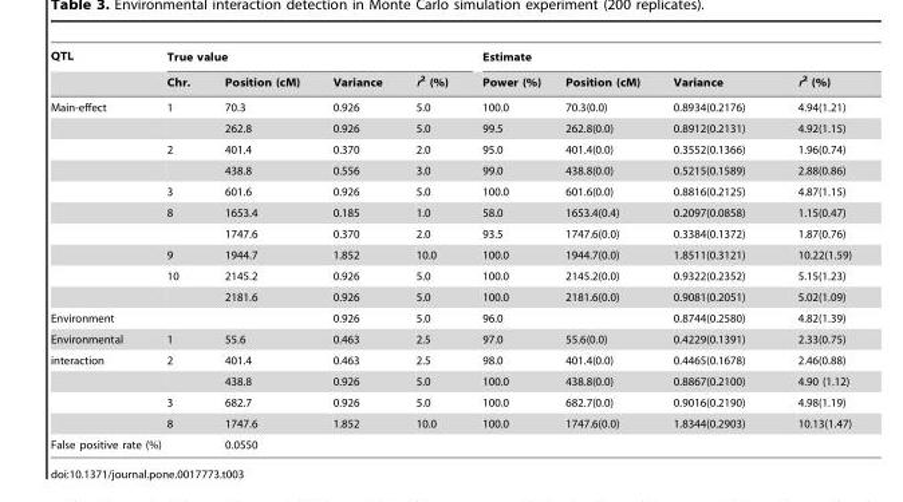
<table><thead><tr><td rowspan="2">QTL</td><td colspan="4">True value</td><td colspan="4">Estimate</td></tr><tr><td>Chr.</td><td>Position (cM)</td><td>Variance</td><td>r<sup>2</sup> (%)</td><td>Power (%)</td><td>Position (cM)</td><td>Variance</td><td>r<sup>2</sup> (%)</td></tr></thead><tbody><tr><td rowspan="10">Main-effect</td><td>1</td><td>70.3</td><td>0.926</td><td>5.0</td><td>100.0</td><td>70.3(0.0)</td><td>0.8934(0.2176)</td><td>4.94(1.21)</td></tr><tr><td></td><td>262.8</td><td>0.926</td><td>5.0</td><td>99.5</td><td>262.8(0.0)</td><td>0.8912(0.2131)</td><td>4.92(1.15)</td></tr><tr><td>2</td><td>401.4</td><td>0.370</td><td>2.0</td><td>95.0</td><td>401.4(0.0)</td><td>0.3552(0.1366)</td><td>1.96(0.74)</td></tr><tr><td></td><td>438.8</td><td>0.556</td><td>3.0</td><td>99.0</td><td>438.8(0.0)</td><td>0.5215(0.1589)</td><td>2.88(0.86)</td></tr><tr><td>3</td><td>601.6</td><td>0.926</td><td>5.0</td><td>100.0</td><td>601.6(0.0)</td><td>0.8816(0.2125)</td><td>4.87(1.15)</td></tr><tr><td>8</td><td>1653.4</td><td>0.185</td><td>1.0</td><td>58.0</td><td>1653.4(0.4)</td><td>0.2097(0.0858)</td><td>1.15(0.47)</td></tr><tr><td></td><td>1747.6</td><td>0.370</td><td>2.0</td><td>93.5</td><td>1747.6(0.0)</td><td>0.3384(0.1372)</td><td>1.87(0.76)</td></tr><tr><td>9</td><td>1944.7</td><td>1.852</td><td>10.0</td><td>100.0</td><td>1944.7(0.0)</td><td>1.8511(0.3121)</td><td>10.22(1.59)</td></tr><tr><td>10</td><td>2145.2</td><td>0.926</td><td>5.0</td><td>100.0</td><td>2145.2(0.0)</td><td>0.9322(0.2352)</td><td>5.15(1.23)</td></tr><tr><td></td><td>2181.6</td><td>0.926</td><td>5.0</td><td>100.0</td><td>2181.6(0.0)</td><td>0.9081(0.2051)</td><td>5.02(1.09)</td></tr><tr><td>Environment</td><td></td><td></td><td>0.926</td><td>5.0</td><td>96.0</td><td></td><td>0.8744(0.2580)</td><td>4.82(1.39)</td></tr><tr><td>Environmental</td><td>1</td><td>55.6</td><td>0.463</td><td>2.5</td><td>97.0</td><td>55.6(0.0)</td><td>0.4229(0.1391)</td><td>2.33(0.75)</td></tr><tr><td rowspan="4">interaction</td><td>2</td><td>401.4</td><td>0.463</td><td>2.5</td><td>98.0</td><td>401.4(0.0)</td><td>0.4465(0.1678)</td><td>2.46(0.88)</td></tr><tr><td></td><td>438.8</td><td>0.926</td><td>5.0</td><td>100.0</td><td>438.8(0.0)</td><td>0.8867(0.2100)</td><td>4.90 (1.12)</td></tr><tr><td>3</td><td>682.7</td><td>0.926</td><td>5.0</td><td>100.0</td><td>682.7(0.0)</td><td>0.9016(0.2190)</td><td>4.98(1.19)</td></tr><tr><td>8</td><td>1747.6</td><td>1.852</td><td>10.0</td><td>100.0</td><td>1747.6(0.0)</td><td>1.8344(0.2903)</td><td>10.13(1.47)</td></tr><tr><td colspan="2">False positive rate (%)</td><td colspan="7">0.0550</td></tr></tbody></table>